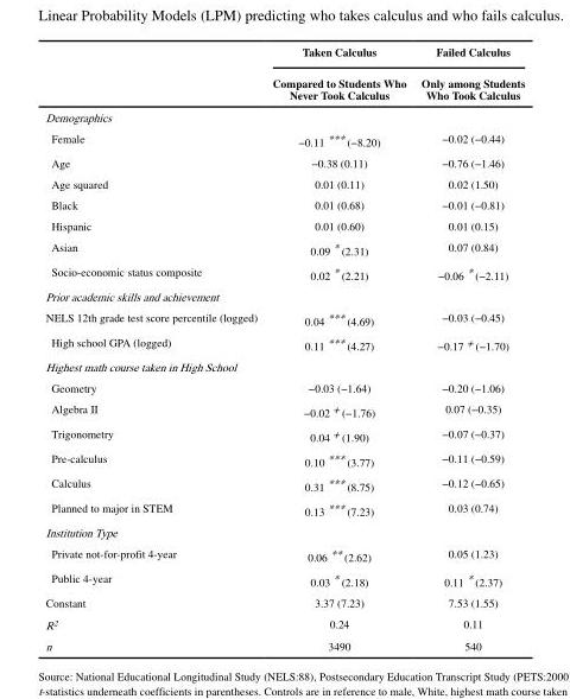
<table><thead><tr><td rowspan="2"></td><td rowspan="2">Taken Calculus Compared to Students Who Never Took Calculus</td><td rowspan="2">Failed Calculus Only among Students Who Took Calculus</td></tr><tr></tr></thead><tbody><tr><td colspan="3">Demographics</td></tr><tr><td>Female</td><td>−0.11 *** (−8.20)</td><td>−0.02 (−0.44)</td></tr><tr><td>Age</td><td>−0.38 (0.11)</td><td>−0.76 (−1.46)</td></tr><tr><td>Age squared</td><td>0.01 (0.11)</td><td>0.02 (1.50)</td></tr><tr><td>Black</td><td>0.01 (0.68)</td><td>−0.01 (−0.81)</td></tr><tr><td>Hispanic</td><td>0.01 (0.60)</td><td>0.01 (0.15)</td></tr><tr><td>Asian</td><td>0.09 * (2.31)</td><td>0.07 (0.84)</td></tr><tr><td>Socio-economic status composite</td><td>0.02 * (2.21)</td><td>−0.06 * (−2.11)</td></tr><tr><td colspan="3">Prior academic skills and achievement</td></tr><tr><td>NELS 12th grade test score percentile (logged)</td><td>0.04 *** (4.69)</td><td>−0.03 (−0.45)</td></tr><tr><td>High school GPA (logged)</td><td>0.11 *** (4.27)</td><td>−0.17 + (−1.70)</td></tr><tr><td colspan="3">Highest math course taken in High School</td></tr><tr><td>Geometry</td><td>−0.03 (−1.64)</td><td>−0.20 (−1.06)</td></tr><tr><td>Algebra II</td><td>−0.02 + (−1.76)</td><td>0.07 (−0.35)</td></tr><tr><td>Trigonometry</td><td>0.04 + (1.90)</td><td>−0.07 (−0.37)</td></tr><tr><td>Pre-calculus</td><td>0.10 *** (3.77)</td><td>−0.11 (−0.59)</td></tr><tr><td>Calculus</td><td>0.31 *** (8.75)</td><td>−0.12 (−0.65)</td></tr><tr><td>Planned to major in STEM</td><td>0.13 *** (7.23)</td><td>0.03 (0.74)</td></tr><tr><td colspan="3">Institution Type</td></tr><tr><td>Private not-for-profit 4-year</td><td>0.06 ** (2.62)</td><td>0.05 (1.23)</td></tr><tr><td>Public 4-year</td><td>0.03 * (2.18)</td><td>0.11 * (2.37)</td></tr><tr><td>Constant</td><td>3.37 (7.23)</td><td>7.53 (1.55)</td></tr><tr><td>R<sup>2</sup></td><td>0.24</td><td>0.11</td></tr><tr><td>n</td><td>3490</td><td>540</td></tr></tbody></table>